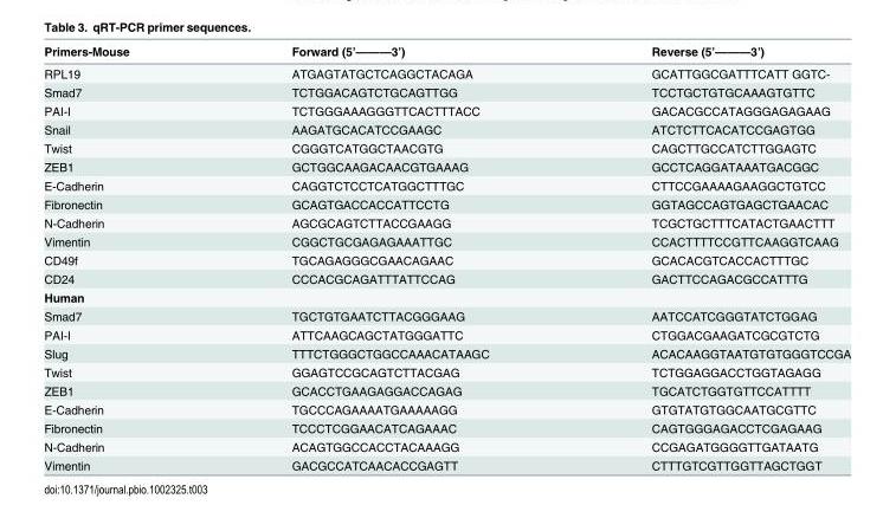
<table><thead><tr><td>Primers-Mouse</td><td>Forward (5’———3’)</td><td>Reverse (5’———3’)</td></tr></thead><tbody><tr><td>RPL19</td><td>ATGAGTATGCTCAGGCTACAGA</td><td>GCATTGGCGATTTCATT GGTC-</td></tr><tr><td>Smad7</td><td>TCTGGACAGTCTGCAGTTGG</td><td>TCCTGCTGTGCAAAGTGTTC</td></tr><tr><td>PAI-I</td><td>TCTGGGAAAGGGTTCACTTTACC</td><td>GACACGCCATAGGGAGAGAAG</td></tr><tr><td>Snail</td><td>AAGATGCACATCCGAAGC</td><td>ATCTCTTCACATCCGAGTGG</td></tr><tr><td>Twist</td><td>CGGGTCATGGCTAACGTG</td><td>CAGCTTGCCATCTTGGAGTC</td></tr><tr><td>ZEB1</td><td>GCTGGCAAGACAACGTGAAAG</td><td>GCCTCAGGATAAATGACGGC</td></tr><tr><td>E-Cadherin</td><td>CAGGTCTCCTCATGGCTTTGC</td><td>CTTCCGAAAAGAAGGCTGTCC</td></tr><tr><td>Fibronectin</td><td>GCAGTGACCACCATTCCTG</td><td>GGTAGCCAGTGAGCTGAACAC</td></tr><tr><td>N-Cadherin</td><td>AGCGCAGTCTTACCGAAGG</td><td>TCGCTGCTTTCATACTGAACTTT</td></tr><tr><td>Vimentin</td><td>CGGCTGCGAGAGAAATTGC</td><td>CCACTTTTCCGTTCAAGGTCAAG</td></tr><tr><td>CD49f</td><td>TGCAGAGGGCGAACAGAAC</td><td>GCACACGTCACCACTTTGC</td></tr><tr><td>CD24</td><td>CCCACGCAGATTTATTCCAG</td><td>GACTTCCAGACGCCATTTG</td></tr><tr><td colspan="3">Human</td></tr><tr><td>Smad7</td><td>TGCTGTGAATCTTACGGGAAG</td><td>AATCCATCGGGTATCTGGAG</td></tr><tr><td>PAI-I</td><td>ATTCAAGCAGCTATGGGATTC</td><td>CTGGACGAAGATCGCGTCTG</td></tr><tr><td>Slug</td><td>TTTCTGGGCTGGCCAAACATAAGC</td><td>ACACAAGGTAATGTGTGGGTCCGA</td></tr><tr><td>Twist</td><td>GGAGTCCGCAGTCTTACGAG</td><td>TCTGGAGGACCTGGTAGAGG</td></tr><tr><td>ZEB1</td><td>GCACCTGAAGAGGACCAGAG</td><td>TGCATCTGGTGTTCCATTTT</td></tr><tr><td>E-Cadherin</td><td>TGCCCAGAAAATGAAAAAGG</td><td>GTGTATGTGGCAATGCGTTC</td></tr><tr><td>Fibronectin</td><td>TCCCTCGGAACATCAGAAAC</td><td>CAGTGGGAGACCTCGAGAAG</td></tr><tr><td>N-Cadherin</td><td>ACAGTGGCCACCTACAAAGG</td><td>CCGAGATGGGGTTGATAATG</td></tr><tr><td>Vimentin</td><td>GACGCCATCAACACCGAGTT</td><td>CTTTGTCGTTGGTTAGCTGGT</td></tr></tbody></table>